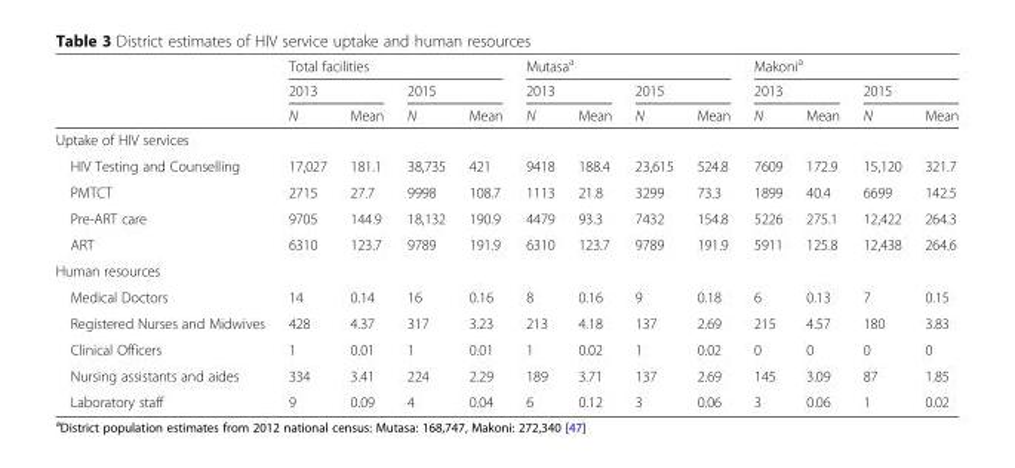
<table><thead><tr><td rowspan="3"></td><td colspan="4">Total facilities</td><td colspan="4">Mutasa<sup>a</sup></td><td colspan="4">Makoni<sup>a</sup></td></tr><tr><td colspan="2">2013</td><td colspan="2">2015</td><td colspan="2">2013</td><td colspan="2">2015</td><td colspan="2">2013</td><td colspan="2">2015</td></tr><tr><td>N</td><td>Mean</td><td>N</td><td>Mean</td><td>N</td><td>Mean</td><td>N</td><td>Mean</td><td>N</td><td>Mean</td><td>N</td><td>Mean</td></tr></thead><tbody><tr><td colspan="13">Uptake of HIV services</td></tr><tr><td>HIV Testing and Counselling</td><td>17,027</td><td>181.1</td><td>38,735</td><td>421</td><td>9418</td><td>188.4</td><td>23,615</td><td>524.8</td><td>7609</td><td>172.9</td><td>15,120</td><td>321.7</td></tr><tr><td>PMTCT</td><td>2715</td><td>27.7</td><td>9998</td><td>108.7</td><td>1113</td><td>21.8</td><td>3299</td><td>73.3</td><td>1899</td><td>40.4</td><td>6699</td><td>142.5</td></tr><tr><td>Pre-ART care</td><td>9705</td><td>144.9</td><td>18,132</td><td>190.9</td><td>4479</td><td>93.3</td><td>7432</td><td>154.8</td><td>5226</td><td>275.1</td><td>12,422</td><td>264.3</td></tr><tr><td>ART</td><td>6310</td><td>123.7</td><td>9789</td><td>191.9</td><td>6310</td><td>123.7</td><td>9789</td><td>191.9</td><td>5911</td><td>125.8</td><td>12,438</td><td>264.6</td></tr><tr><td colspan="13">Human resources</td></tr><tr><td>Medical Doctors</td><td>14</td><td>0.14</td><td>16</td><td>0.16</td><td>8</td><td>0.16</td><td>9</td><td>0.18</td><td>6</td><td>0.13</td><td>7</td><td>0.15</td></tr><tr><td>Registered Nurses and Midwives</td><td>428</td><td>4.37</td><td>317</td><td>3.23</td><td>213</td><td>4.18</td><td>137</td><td>2.69</td><td>215</td><td>4.57</td><td>180</td><td>3.83</td></tr><tr><td>Clinical Officers</td><td>1</td><td>0.01</td><td>1</td><td>0.01</td><td>1</td><td>0.02</td><td>1</td><td>0.02</td><td>0</td><td>0</td><td>0</td><td>0</td></tr><tr><td>Nursing assistants and aides</td><td>334</td><td>3.41</td><td>224</td><td>2.29</td><td>189</td><td>3.71</td><td>137</td><td>2.69</td><td>145</td><td>3.09</td><td>87</td><td>1.85</td></tr><tr><td>Laboratory staff</td><td>9</td><td>0.09</td><td>4</td><td>0.04</td><td>6</td><td>0.12</td><td>3</td><td>0.06</td><td>3</td><td>0.06</td><td>1</td><td>0.02</td></tr></tbody></table>